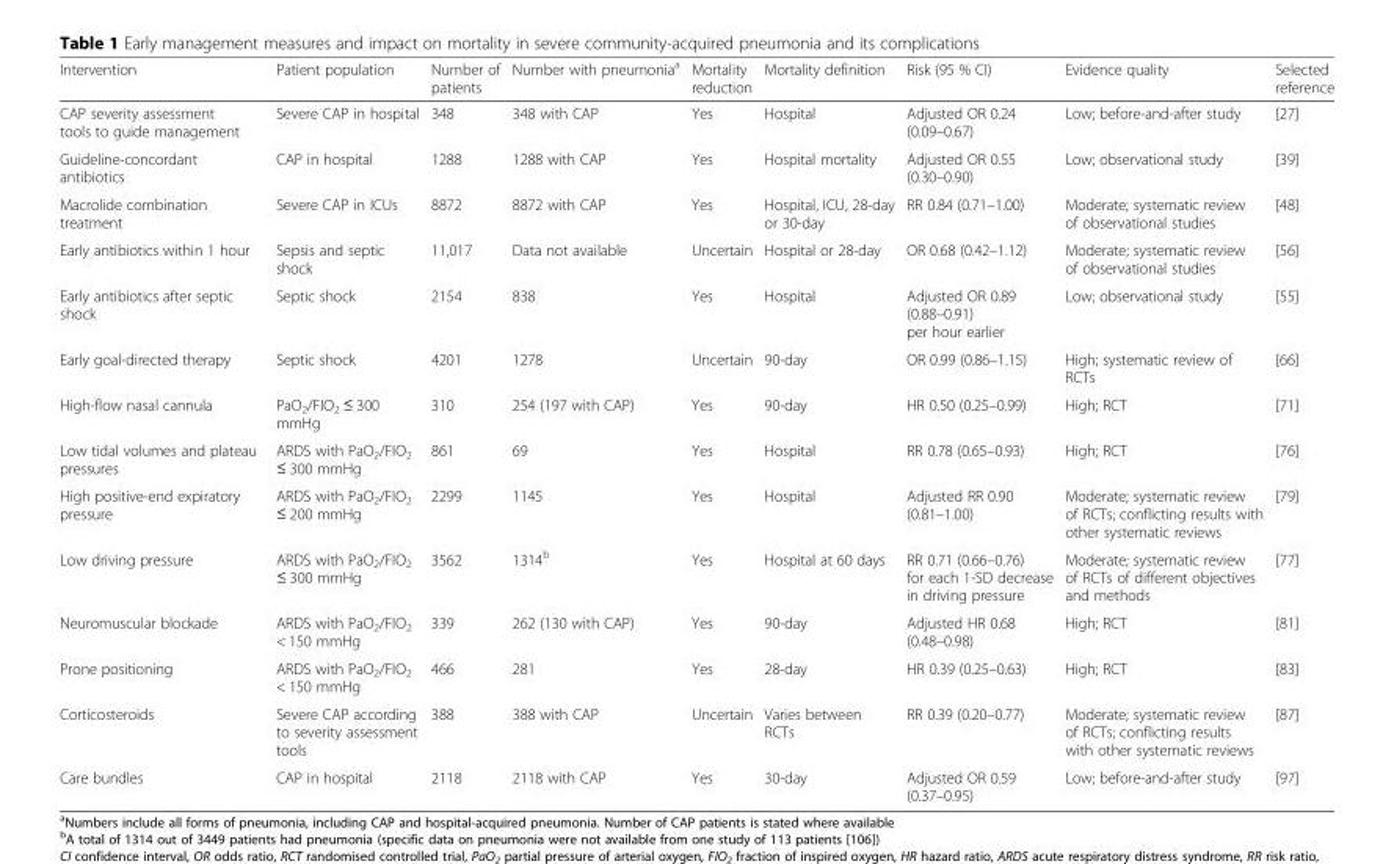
<table><thead><tr><td>Intervention</td><td>Patient population</td><td>Number of patients</td><td>Number with pneumonia<sup>a</sup></td><td>Mortality reduction</td><td>Mortality definition</td><td>Risk (95 % CI)</td><td>Evidence quality</td><td>Selected reference</td></tr></thead><tbody><tr><td>CAP severity assessment tools to guide management</td><td>Severe CAP in hospital</td><td>348</td><td>348 with CAP</td><td>Yes</td><td>Hospital</td><td>Adjusted OR 0.24 (0.09–0.67)</td><td>Low; before-and-after study</td><td>[27]</td></tr><tr><td>Guideline-concordant antibiotics</td><td>CAP in hospital</td><td>1288</td><td>1288 with CAP</td><td>Yes</td><td>Hospital mortality</td><td>Adjusted OR 0.55 (0.30–0.90)</td><td>Low; observational study</td><td>[39]</td></tr><tr><td>Macrolide combination treatment</td><td>Severe CAP in ICUs</td><td>8872</td><td>8872 with CAP</td><td>Yes</td><td>Hospital, ICU, 28-day or 30-day</td><td>RR 0.84 (0.71–1.00)</td><td>Moderate; systematic review of observational studies</td><td>[48]</td></tr><tr><td>Early antibiotics within 1 hour</td><td>Sepsis and septic shock</td><td>11,017</td><td>Data not available</td><td>Uncertain</td><td>Hospital or 28-day</td><td>OR 0.68 (0.42–1.12)</td><td>Moderate; systematic review of observational studies</td><td>[56]</td></tr><tr><td>Early antibiotics after septic shock</td><td>Septic shock</td><td>2154</td><td>838</td><td>Yes</td><td>Hospital</td><td>Adjusted OR 0.89 (0.88–0.91) per hour earlier</td><td>Low; observational study</td><td>[55]</td></tr><tr><td>Early goal-directed therapy</td><td>Septic shock</td><td>4201</td><td>1278</td><td>Uncertain</td><td>90-day</td><td>OR 0.99 (0.86–1.15)</td><td>High; systematic review of RCTs</td><td>[66]</td></tr><tr><td>High-flow nasal cannula</td><td>PaO<sub>2</sub>/FIO<sub>2</sub> ≤ 300 mmHg</td><td>310</td><td>254 (197 with CAP)</td><td>Yes</td><td>90-day</td><td>HR 0.50 (0.25–0.99)</td><td>High; RCT</td><td>[71]</td></tr><tr><td>Low tidal volumes and plateau pressures</td><td>ARDS with PaO<sub>2</sub>/FIO<sub>2</sub> ≤ 300 mmHg</td><td>861</td><td>69</td><td>Yes</td><td>Hospital</td><td>RR 0.78 (0.65–0.93)</td><td>High; RCT</td><td>[76]</td></tr><tr><td>High positive-end expiratory pressure</td><td>ARDS with PaO<sub>2</sub>/FIO<sub>2</sub> ≤ 200 mmHg</td><td>2299</td><td>1145</td><td>Yes</td><td>Hospital</td><td>Adjusted RR 0.90 (0.81–1.00)</td><td>Moderate; systematic review of RCTs; conflicting results with other systematic reviews</td><td>[79]</td></tr><tr><td>Low driving pressure</td><td>ARDS with PaO<sub>2</sub>/FIO<sub>2</sub> ≤ 300 mmHg</td><td>3562</td><td>1314<sup>b</sup></td><td>Yes</td><td>Hospital at 60 days</td><td>RR 0.71 (0.66–0.76) for each 1-SD decrease in driving pressure</td><td>Moderate; systematic review of RCTs of different objectives and methods</td><td>[77]</td></tr><tr><td>Neuromuscular blockade</td><td>ARDS with PaO<sub>2</sub>/FIO<sub>2</sub> &lt; 150 mmHg</td><td>339</td><td>262 (130 with CAP)</td><td>Yes</td><td>90-day</td><td>Adjusted HR 0.68 (0.48–0.98)</td><td>High; RCT</td><td>[81]</td></tr><tr><td>Prone positioning</td><td>ARDS with PaO<sub>2</sub>/FIO<sub>2</sub> &lt; 150 mmHg</td><td>466</td><td>281</td><td>Yes</td><td>28-day</td><td>HR 0.39 (0.25–0.63)</td><td>High; RCT</td><td>[83]</td></tr><tr><td>Corticosteroids</td><td>Severe CAP according to severity assessment tools</td><td>388</td><td>388 with CAP</td><td>Uncertain</td><td>Varies between RCTs</td><td>RR 0.39 (0.20–0.77)</td><td>Moderate; systematic review of RCTs; conflicting results with other systematic reviews</td><td>[87]</td></tr><tr><td>Care bundles</td><td>CAP in hospital</td><td>2118</td><td>2118 with CAP</td><td>Yes</td><td>30-day</td><td>Adjusted OR 0.59 (0.37–0.95)</td><td>Low; before-and-after study</td><td>[97]</td></tr></tbody></table>